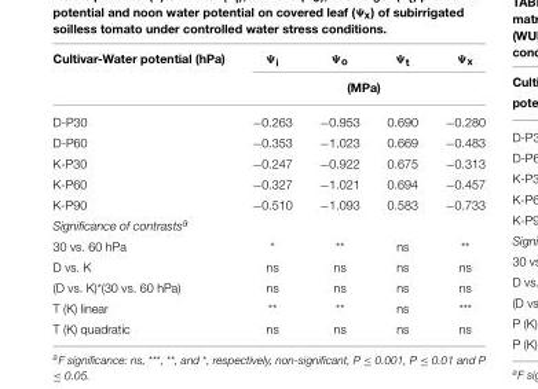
<table><thead><tr><td rowspan="2">Cultivar-Water potential (hPa)</td><td>Ψ<sub>i</sub></td><td>Ψ<sub>o</sub></td><td>Ψ<sub>t</sub></td><td>Ψ<sub>x</sub></td></tr><tr><td colspan="4">(MPa)</td></tr></thead><tbody><tr><td>D-P30</td><td>−0.263</td><td>−0.953</td><td>0.690</td><td>−0.280</td></tr><tr><td>D-P60</td><td>−0.353</td><td>−1.023</td><td>0.669</td><td>−0.483</td></tr><tr><td>K-P30</td><td>−0.247</td><td>−0.922</td><td>0.675</td><td>−0.313</td></tr><tr><td>K-P60</td><td>−0.327</td><td>−1.021</td><td>0.694</td><td>−0.457</td></tr><tr><td>K-P90</td><td>−0.510</td><td>−1.093</td><td>0.583</td><td>−0.733</td></tr><tr><td colspan="5">Significance of contrasts<sup>a</sup></td></tr><tr><td>30 vs. 60 hPa</td><td>*</td><td>**</td><td>ns</td><td>**</td></tr><tr><td>D vs. K</td><td>ns</td><td>ns</td><td>ns</td><td>ns</td></tr><tr><td>(D vs. K)*(30 vs. 60 hPa)</td><td>ns</td><td>ns</td><td>ns</td><td>ns</td></tr><tr><td>T (K) linear</td><td>**</td><td>**</td><td>ns</td><td>***</td></tr><tr><td>T (K) quadratic</td><td>ns</td><td>ns</td><td>ns</td><td>ns</td></tr></tbody></table>